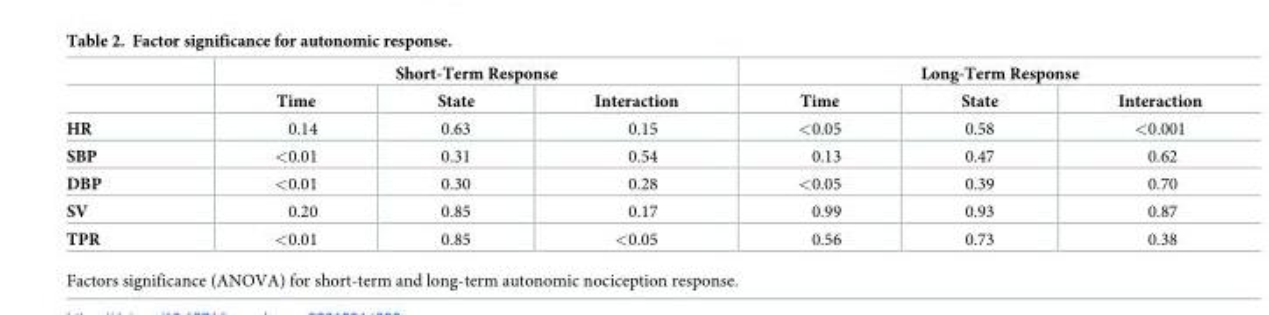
<table><thead><tr><td rowspan="2"></td><td colspan="3">Short-Term Response</td><td colspan="3">Long-Term Response</td></tr><tr><td>Time</td><td>State</td><td>Interaction</td><td>Time</td><td>State</td><td>Interaction</td></tr></thead><tbody><tr><td>HR</td><td>0.14</td><td>0.63</td><td>0.15</td><td>&lt;0.05</td><td>0.58</td><td>&lt;0.001</td></tr><tr><td>SBP</td><td>&lt;0.01</td><td>0.31</td><td>0.54</td><td>0.13</td><td>0.47</td><td>0.62</td></tr><tr><td>DBP</td><td>&lt;0.01</td><td>0.30</td><td>0.28</td><td>&lt;0.05</td><td>0.39</td><td>0.70</td></tr><tr><td>SV</td><td>0.20</td><td>0.85</td><td>0.17</td><td>0.99</td><td>0.93</td><td>0.87</td></tr><tr><td>TPR</td><td>&lt;0.01</td><td>0.85</td><td>&lt;0.05</td><td>0.56</td><td>0.73</td><td>0.38</td></tr></tbody></table>